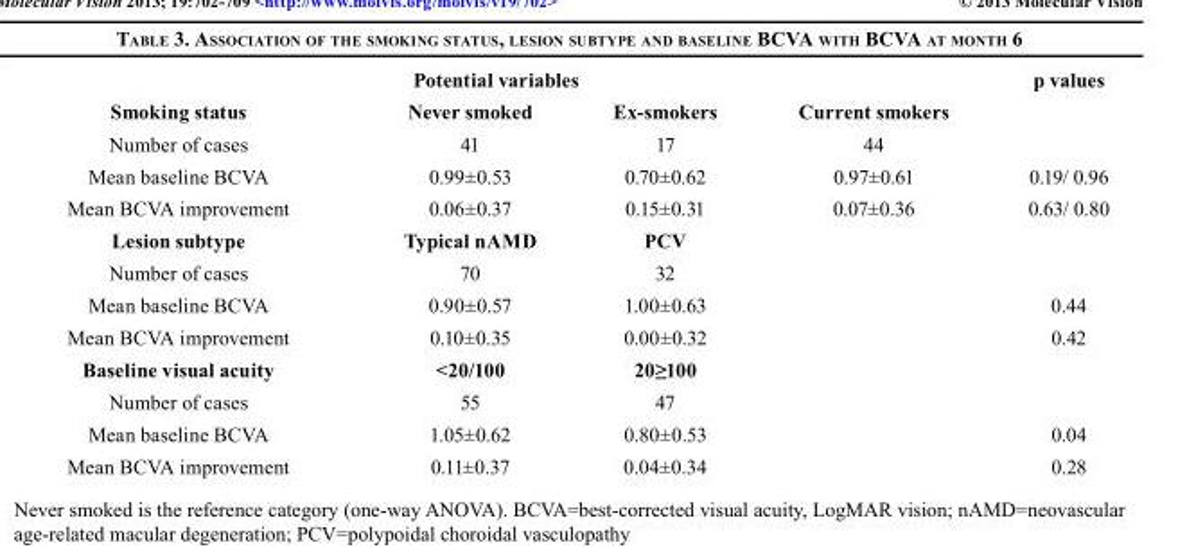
<table><tbody><tr><td colspan="4">Potential variables</td><td>p values</td></tr><tr><td>Smoking status</td><td>Never smoked</td><td>Ex-smokers</td><td>Current smokers</td><td></td></tr><tr><td>Number of cases</td><td>41</td><td>17</td><td>44</td><td></td></tr><tr><td>Mean baseline BCVA</td><td>0.99±0.53</td><td>0.70±0.62</td><td>0.97±0.61</td><td>0.19/ 0.96</td></tr><tr><td>Mean BCVA improvement</td><td>0.06±0.37</td><td>0.15±0.31</td><td>0.07±0.36</td><td>0.63/ 0.80</td></tr><tr><td>Lesion subtype</td><td>Typical nAMD</td><td>PCV</td><td rowspan="4"></td><td></td></tr><tr><td>Number of cases</td><td>70</td><td>32</td><td></td></tr><tr><td>Mean baseline BCVA</td><td>0.90±0.57</td><td>1.00±0.63</td><td>0.44</td></tr><tr><td>Mean BCVA improvement</td><td>0.10±0.35</td><td>0.00±0.32</td><td>0.42</td></tr><tr><td>Baseline visual acuity</td><td>&lt;20/100</td><td>20≥100</td><td rowspan="4"></td><td></td></tr><tr><td>Number of cases</td><td>55</td><td>47</td><td></td></tr><tr><td>Mean baseline BCVA</td><td>1.05±0.62</td><td>0.80±0.53</td><td>0.04</td></tr><tr><td>Mean BCVA improvement</td><td>0.11±0.37</td><td>0.04±0.34</td><td>0.28</td></tr></tbody></table>